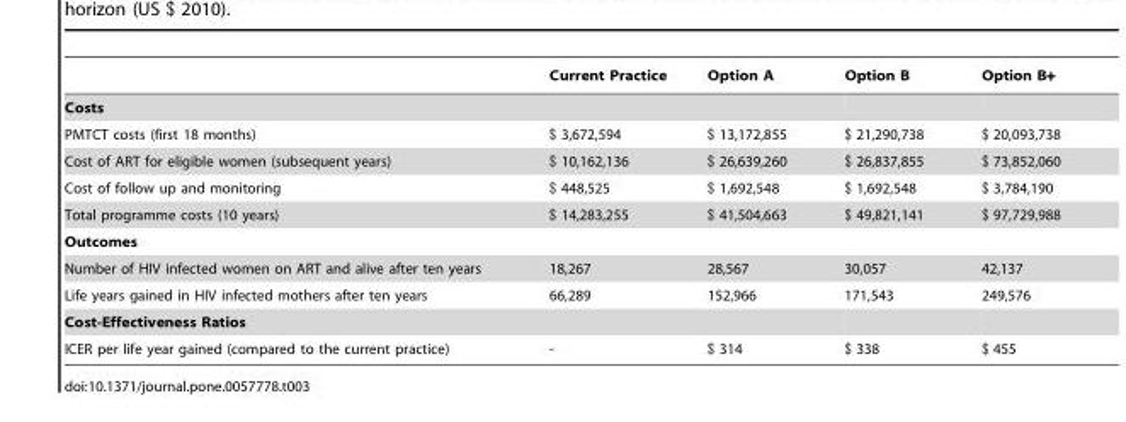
<table><thead><tr><td></td><td>Current Practice</td><td>Option A</td><td>Option B</td><td>Option B+</td></tr></thead><tbody><tr><td colspan="5">Costs</td></tr><tr><td>PMTCT costs (first 18 months)</td><td>$ 3,672,594</td><td>$ 13,172,855</td><td>$ 21,290,738</td><td>$ 20,093,738</td></tr><tr><td>Cost of ART for eligible women (subsequent years)</td><td>$ 10,162,136</td><td>$ 26,639,260</td><td>$ 26,837,855</td><td>$ 73,852,060</td></tr><tr><td>Cost of follow up and monitoring</td><td>$ 448,525</td><td>$ 1,692,548</td><td>$ 1,692,548</td><td>$ 3,784,190</td></tr><tr><td>Total programme costs (10 years)</td><td>$ 14,283,255</td><td>$ 41,504,663</td><td>$ 49,821,141</td><td>$ 97,729,988</td></tr><tr><td colspan="5">Outcomes</td></tr><tr><td>Number of HIV infected women on ART and alive after ten years</td><td>18,267</td><td>28,567</td><td>30,057</td><td>42,137</td></tr><tr><td>Life years gained in HIV infected mothers after ten years</td><td>66,289</td><td>152,966</td><td>171,543</td><td>249,576</td></tr><tr><td colspan="5">Cost-Effectiveness Ratios</td></tr><tr><td>ICER per life year gained (compared to the current practice)</td><td>-</td><td>$ 314</td><td>$ 338</td><td>$ 455</td></tr></tbody></table>